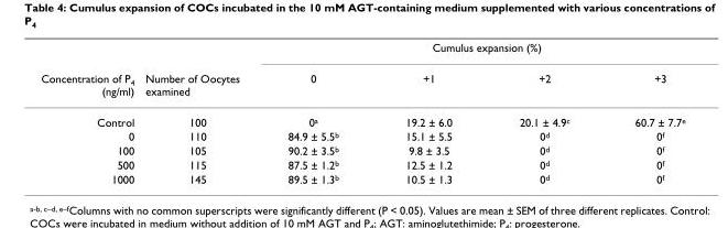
<table><thead><tr><td rowspan="2">Concentration of P<sub>4</sub> (ng/ml)</td><td rowspan="2">Number of Oocytes examined</td><td colspan="4">Cumulus expansion (%)</td></tr><tr><td>0</td><td>+1</td><td>+2</td><td>+3</td></tr></thead><tbody><tr><td>Control</td><td>100</td><td>0<sup>a</sup></td><td>19.2 ± 6.0</td><td>20.1 ± 4.9<sup>c</sup></td><td>60.7 ± 7.7<sup>e</sup></td></tr><tr><td>0</td><td>110</td><td>84.9 ± 5.5<sup>b</sup></td><td>15.1 ± 5.5</td><td>0<sup>d</sup></td><td>0<sup>f</sup></td></tr><tr><td>100</td><td>105</td><td>90.2 ± 3.5<sup>b</sup></td><td>9.8 ± 3.5</td><td>0<sup>d</sup></td><td>0<sup>f</sup></td></tr><tr><td>500</td><td>115</td><td>87.5 ± 1.2<sup>b</sup></td><td>12.5 ± 1.2</td><td>0<sup>d</sup></td><td>0<sup>f</sup></td></tr><tr><td>1000</td><td>145</td><td>89.5 ± 1.3<sup>b</sup></td><td>10.5 ± 1.3</td><td>0<sup>d</sup></td><td>0<sup>f</sup></td></tr></tbody></table>